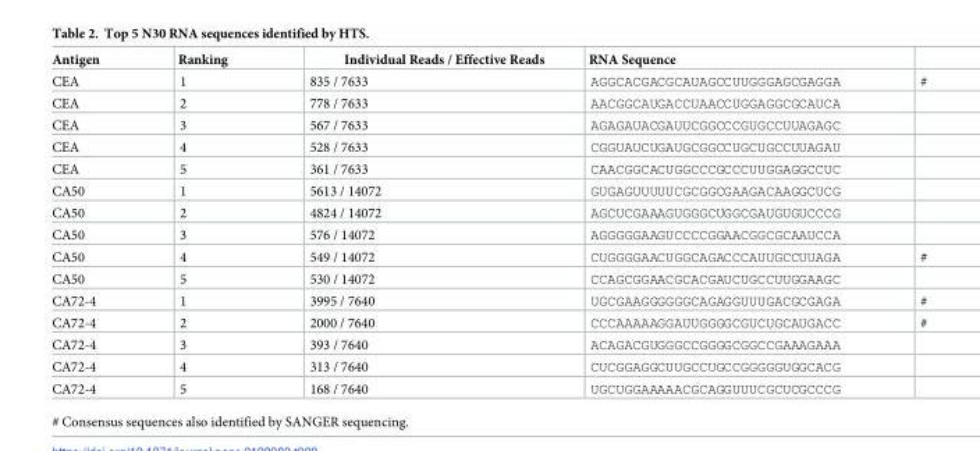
<table><thead><tr><td>Antigen</td><td>Ranking</td><td>Individual Reads / Effective Reads</td><td>RNA Sequence</td><td></td></tr></thead><tbody><tr><td>CEA</td><td>1</td><td>835 / 7633</td><td>AGGCACGACGCAUAGCCUUGGGAGCGAGGA</td><td>#</td></tr><tr><td>CEA</td><td>2</td><td>778 / 7633</td><td>AACGGCAUGACCUAACCUGGAGGCGCAUCA</td><td></td></tr><tr><td>CEA</td><td>3</td><td>567 / 7633</td><td>AGAGAUACGAUUCGGCCCGUGCCUUAGAGC</td><td></td></tr><tr><td>CEA</td><td>4</td><td>528 / 7633</td><td>CGGUAUCUGAUGCGGCCUGCUGCCUUAGAU</td><td></td></tr><tr><td>CEA</td><td>5</td><td>361 / 7633</td><td>CAACGGCACUGGCCCGCCCUUGGAGGCCUC</td><td></td></tr><tr><td>CA50</td><td>1</td><td>5613 / 14072</td><td>GUGAGUUUUUCGCGGCGAAGACAAGGCUCG</td><td></td></tr><tr><td>CA50</td><td>2</td><td>4824 / 14072</td><td>AGCUCGAAAGUGGGCUGGCGAUGUGUCCCG</td><td></td></tr><tr><td>CA50</td><td>3</td><td>576 / 14072</td><td>AGGGGGAAGUCCCCGGAACGGCGCAAUCCA</td><td></td></tr><tr><td>CA50</td><td>4</td><td>549 / 14072</td><td>CUGGGGAACUGGCAGACCCAUUGCCUUAGA</td><td>#</td></tr><tr><td>CA50</td><td>5</td><td>530 / 14072</td><td>CCAGCGGAACGCACGAUCUGCCUUGGAAGC</td><td></td></tr><tr><td>CA72-4</td><td>1</td><td>3995 / 7640</td><td>UGCGAAGGGGGGCAGAGGUUUGACGCGAGA</td><td>#</td></tr><tr><td>CA72-4</td><td>2</td><td>2000 / 7640</td><td>CCCAAAAAGGAUUGGGGCGUCUGCAUGACC</td><td>#</td></tr><tr><td>CA72-4</td><td>3</td><td>393 / 7640</td><td>ACAGACGUGGGCCGGGGCGGCCGAAAGAAA</td><td></td></tr><tr><td>CA72-4</td><td>4</td><td>313 / 7640</td><td>CUCGGAGGCUUGCCUGCCGGGGGUGGCACG</td><td></td></tr><tr><td>CA72-4</td><td>5</td><td>168 / 7640</td><td>UGCUGGAAAAACGCAGGUUUCGCUCGCCCG</td><td></td></tr></tbody></table>